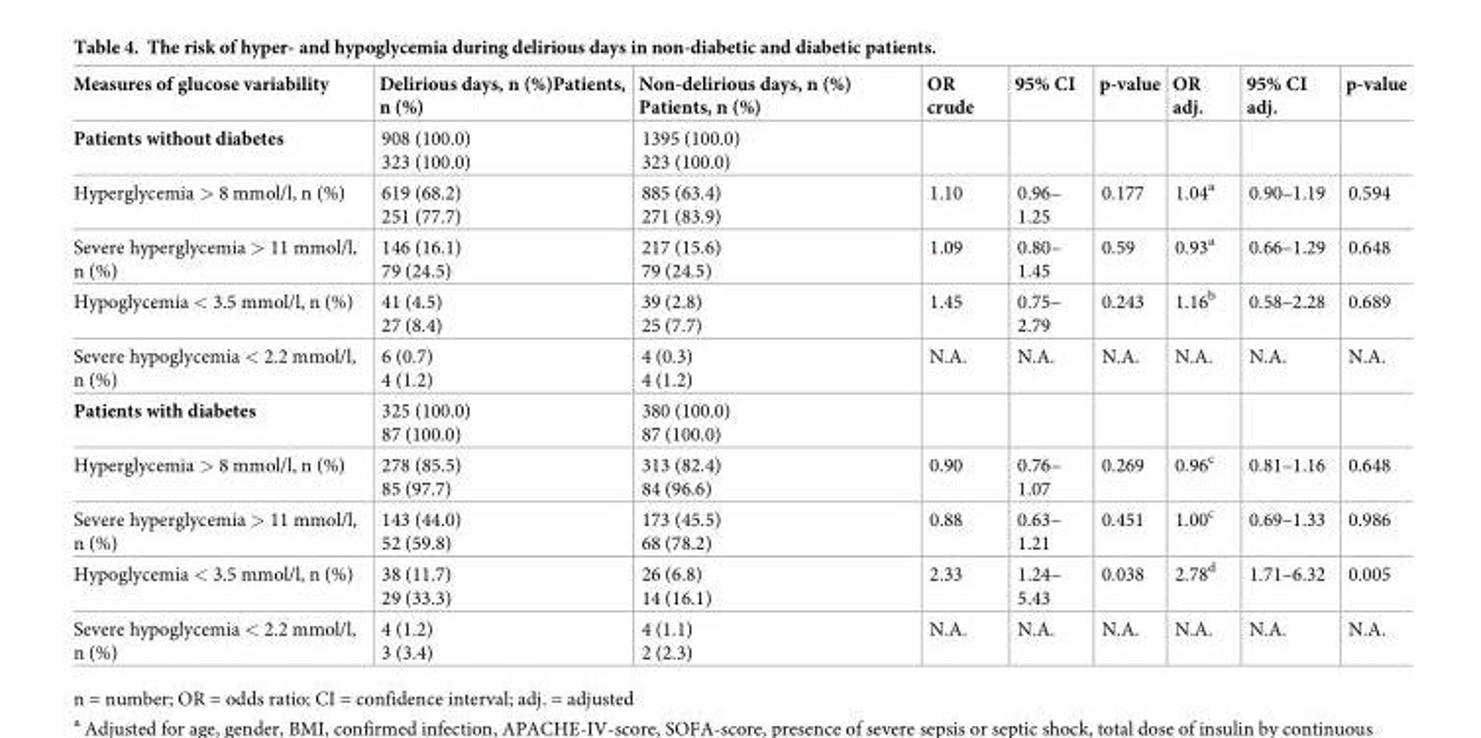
<table><thead><tr><td>Measures of glucose variability</td><td>Delirious days, n (%)Patients, n (%)</td><td>Non-delirious days, n (%) Patients, n (%)</td><td>OR crude</td><td>95% CI</td><td>p-value</td><td>OR adj.</td><td>95% CI adj.</td><td>p-value</td></tr></thead><tbody><tr><td>Patients without diabetes</td><td>908 (100.0) 323 (100.0)</td><td>1395 (100.0) 323 (100.0)</td><td></td><td></td><td></td><td></td><td></td><td></td></tr><tr><td>Hyperglycemia &gt; 8 mmol/l, n (%)</td><td>619 (68.2) 251 (77.7)</td><td>885 (63.4) 271 (83.9)</td><td>1.10</td><td>0.96– 1.25</td><td>0.177</td><td>1.04<sup>a</sup></td><td>0.90–1.19</td><td>0.594</td></tr><tr><td>Severe hyperglycemia &gt; 11 mmol/l, n (%)</td><td>146 (16.1) 79 (24.5)</td><td>217 (15.6) 79 (24.5)</td><td>1.09</td><td>0.80– 1.45</td><td>0.59</td><td>0.93<sup>a</sup></td><td>0.66–1.29</td><td>0.648</td></tr><tr><td>Hypoglycemia &lt; 3.5 mmol/l, n (%)</td><td>41 (4.5) 27 (8.4)</td><td>39 (2.8) 25 (7.7)</td><td>1.45</td><td>0.75– 2.79</td><td>0.243</td><td>1.16<sup>b</sup></td><td>0.58–2.28</td><td>0.689</td></tr><tr><td>Severe hypoglycemia &lt; 2.2 mmol/l, n (%)</td><td>6 (0.7) 4 (1.2)</td><td>4 (0.3) 4 (1.2)</td><td>N.A.</td><td>N.A.</td><td>N.A.</td><td>N.A.</td><td>N.A.</td><td>N.A.</td></tr><tr><td>Patients with diabetes</td><td>325 (100.0) 87 (100.0)</td><td>380 (100.0) 87 (100.0)</td><td></td><td></td><td></td><td></td><td></td><td></td></tr><tr><td>Hyperglycemia &gt; 8 mmol/l, n (%)</td><td>278 (85.5) 85 (97.7)</td><td>313 (82.4) 84 (96.6)</td><td>0.90</td><td>0.76– 1.07</td><td>0.269</td><td>0.96<sup>c</sup></td><td>0.81–1.16</td><td>0.648</td></tr><tr><td>Severe hyperglycemia &gt; 11 mmol/l, n (%)</td><td>143 (44.0) 52 (59.8)</td><td>173 (45.5) 68 (78.2)</td><td>0.88</td><td>0.63– 1.21</td><td>0.451</td><td>1.00<sup>c</sup></td><td>0.69–1.33</td><td>0.986</td></tr><tr><td>Hypoglycemia &lt; 3.5 mmol/l, n (%)</td><td>38 (11.7) 29 (33.3)</td><td>26 (6.8) 14 (16.1)</td><td>2.33</td><td>1.24– 5.43</td><td>0.038</td><td>2.78<sup>d</sup></td><td>1.71–6.32</td><td>0.005</td></tr><tr><td>Severe hypoglycemia &lt; 2.2 mmol/l, n (%)</td><td>4 (1.2) 3 (3.4)</td><td>4 (1.1) 2 (2.3)</td><td>N.A.</td><td>N.A.</td><td>N.A.</td><td>N.A.</td><td>N.A.</td><td>N.A.</td></tr></tbody></table>